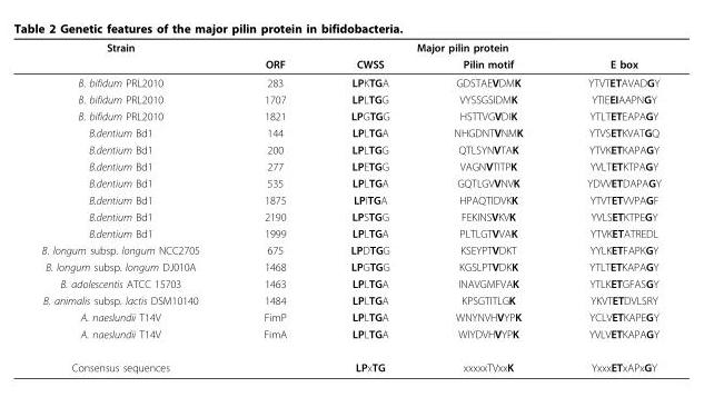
<table><thead><tr><td rowspan="2">Strain</td><td colspan="4">Major pilin protein</td></tr><tr><td>ORF</td><td>CWSS</td><td>Pilin motif</td><td>E box</td></tr></thead><tbody><tr><td>B. bifidum PRL2010</td><td>283</td><td>LPKTGA</td><td>GDSTAEVDMK</td><td>YTVTETAVADGY</td></tr><tr><td>B. bifidum PRL2010</td><td>1707</td><td>LPLTGG</td><td>VYSSGSIDMK</td><td>YTIEEIAAPNGY</td></tr><tr><td>B. bifidum PRL2010</td><td>1821</td><td>LPGTGG</td><td>HSTTVGVDIK</td><td>YTLTETEAPAGY</td></tr><tr><td>B.dentium Bd1</td><td>144</td><td>LPLTGA</td><td>NHGDNTVNMK</td><td>YTVSETKVATGQ</td></tr><tr><td>B.dentium Bd1</td><td>200</td><td>LPLTGG</td><td>QTLSYNVTAK</td><td>YTVKETKAPAGY</td></tr><tr><td>B.dentium Bd1</td><td>277</td><td>LPETGG</td><td>VAGNVTITPK</td><td>YVLTETKTPAGY</td></tr><tr><td>B.dentium Bd1</td><td>535</td><td>LPLTGA</td><td>GQTLGVVNVK</td><td>YDVVETDAPAGY</td></tr><tr><td>B.dentium Bd1</td><td>1875</td><td>LPITGA</td><td>HPAQTIDVKK</td><td>YTVTETVVPAGF</td></tr><tr><td>B.dentium Bd1</td><td>2190</td><td>LPSTGG</td><td>FEKINSVKVK</td><td>YVLSETKTPEGY</td></tr><tr><td>B.dentium Bd1</td><td>1999</td><td>LPLTGA</td><td>PLTLGTVVAK</td><td>YTVKETATREDL</td></tr><tr><td>B. longum subsp. longum NCC2705</td><td>675</td><td>LPDTGG</td><td>KSEYPTVDKT</td><td>YYLKETFAPKGY</td></tr><tr><td>B. longum subsp. longum DJ010A</td><td>1468</td><td>LPGTGG</td><td>KGSLPTVDKK</td><td>YTLTETKAPAGY</td></tr><tr><td>B. adolescentis ATCC 15703</td><td>1463</td><td>LPLTGA</td><td>INAVGMFVAK</td><td>YTLKETGFASGY</td></tr><tr><td>B. animalis subsp. lactis DSM10140</td><td>1484</td><td>LPLTGA</td><td>KPSGTITLGK</td><td>YKVTETDVLSRY</td></tr><tr><td>A. naeslundii T14V</td><td>FimP</td><td>LPLTGA</td><td>WNYNVHVYPK</td><td>YCLVETKAPEGY</td></tr><tr><td>A. naeslundii T14V</td><td>FimA</td><td>LPLTGA</td><td>WIYDVHVYPK</td><td>YVLVETKAPAGY</td></tr><tr><td>Consensus sequences</td><td></td><td>LPxTG</td><td>xxxxxTVxxK</td><td>YxxxETxAPxGY</td></tr></tbody></table>